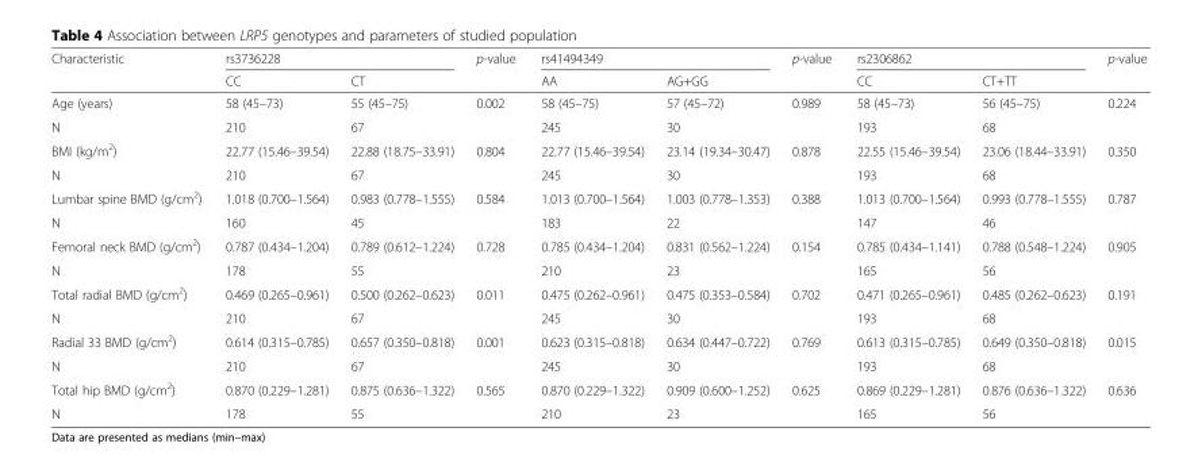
<table><thead><tr><td rowspan="2">Characteristic</td><td colspan="2">rs3736228</td><td rowspan="2">p-value</td><td colspan="2">rs41494349</td><td rowspan="2">p-value</td><td colspan="2">rs2306862</td><td rowspan="2">p-value</td></tr><tr><td>CC</td><td>CT</td><td>AA</td><td>AG+GG</td><td>CC</td><td>CT+TT</td></tr></thead><tbody><tr><td>Age (years)</td><td>58 (45–73)</td><td>55 (45–75)</td><td>0.002</td><td>58 (45–75)</td><td>57 (45–72)</td><td>0.989</td><td>58 (45–73)</td><td>56 (45–75)</td><td rowspan="2">0.224</td></tr><tr><td>N</td><td>210</td><td>67</td><td></td><td>245</td><td>30</td><td></td><td>193</td><td>68</td></tr><tr><td>BMI (kg/m<sup>2</sup>)</td><td>22.77 (15.46–39.54)</td><td>22.88 (18.75–33.91)</td><td>0.804</td><td>22.77 (15.46–39.54)</td><td>23.14 (19.34–30.47)</td><td>0.878</td><td>22.55 (15.46–39.54)</td><td>23.06 (18.44–33.91)</td><td rowspan="2">0.350</td></tr><tr><td>N</td><td>210</td><td>67</td><td></td><td>245</td><td>30</td><td></td><td>193</td><td>68</td></tr><tr><td>Lumbar spine BMD (g/cm<sup>2</sup>)</td><td>1.018 (0.700–1.564)</td><td>0.983 (0.778–1.555)</td><td>0.584</td><td>1.013 (0.700–1.564)</td><td>1.003 (0.778–1.353)</td><td>0.388</td><td>1.013 (0.700–1.564)</td><td>0.993 (0.778–1.555)</td><td rowspan="2">0.787</td></tr><tr><td>N</td><td>160</td><td>45</td><td></td><td>183</td><td>22</td><td></td><td>147</td><td>46</td></tr><tr><td>Femoral neck BMD (g/cm<sup>2</sup>)</td><td>0.787 (0.434–1.204)</td><td>0.789 (0.612–1.224)</td><td>0.728</td><td>0.785 (0.434–1.204)</td><td>0.831 (0.562–1.224)</td><td>0.154</td><td>0.785 (0.434–1.141)</td><td>0.788 (0.548–1.224)</td><td rowspan="2">0.905</td></tr><tr><td>N</td><td>178</td><td>55</td><td></td><td>210</td><td>23</td><td></td><td>165</td><td>56</td></tr><tr><td>Total radial BMD (g/cm<sup>2</sup>)</td><td>0.469 (0.265–0.961)</td><td>0.500 (0.262–0.623)</td><td>0.011</td><td>0.475 (0.262–0.961)</td><td>0.475 (0.353–0.584)</td><td>0.702</td><td>0.471 (0.265–0.961)</td><td>0.485 (0.262–0.623)</td><td rowspan="2">0.191</td></tr><tr><td>N</td><td>210</td><td>67</td><td></td><td>245</td><td>30</td><td></td><td>193</td><td>68</td></tr><tr><td>Radial 33 BMD (g/cm<sup>2</sup>)</td><td>0.614 (0.315–0.785)</td><td>0.657 (0.350–0.818)</td><td>0.001</td><td>0.623 (0.315–0.818)</td><td>0.634 (0.447–0.722)</td><td>0.769</td><td>0.613 (0.315–0.785)</td><td>0.649 (0.350–0.818)</td><td rowspan="2">0.015</td></tr><tr><td>N</td><td>210</td><td>67</td><td></td><td>245</td><td>30</td><td></td><td>193</td><td>68</td></tr><tr><td>Total hip BMD (g/cm<sup>2</sup>)</td><td>0.870 (0.229–1.281)</td><td>0.875 (0.636–1.322)</td><td>0.565</td><td>0.870 (0.229–1.322)</td><td>0.909 (0.600–1.252)</td><td>0.625</td><td>0.869 (0.229–1.281)</td><td>0.876 (0.636–1.322)</td><td rowspan="2">0.636</td></tr><tr><td>N</td><td>178</td><td>55</td><td></td><td>210</td><td>23</td><td></td><td>165</td><td>56</td></tr></tbody></table>